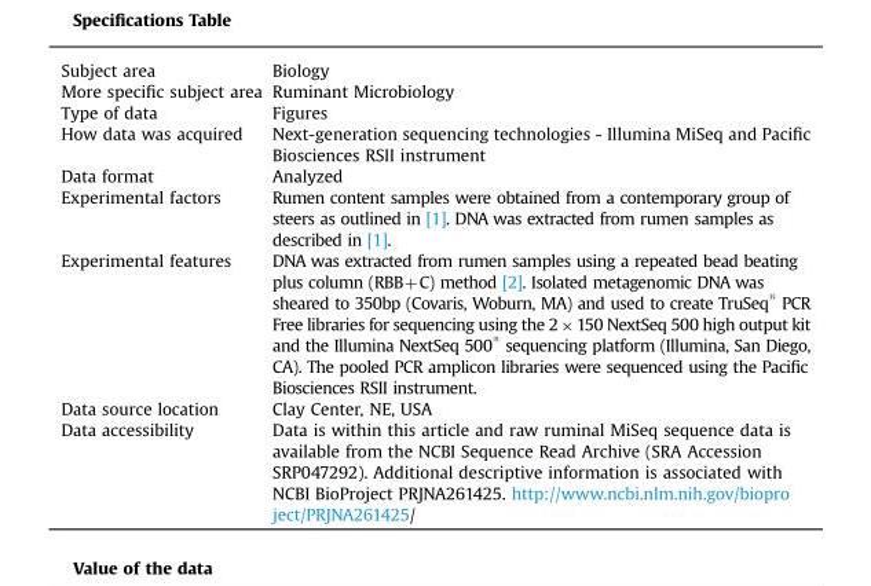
<table><tbody><tr><td>Subject area</td><td>Biology</td></tr><tr><td>More specific subject area</td><td>Ruminant Microbiology</td></tr><tr><td>Type of data</td><td>Figures</td></tr><tr><td>How data was acquired</td><td>Next-generation sequencing technologies - Illumina MiSeq and Pacific Biosciences RSII instrument</td></tr><tr><td>Data format</td><td>Analyzed</td></tr><tr><td>Experimental factors</td><td>Rumen content samples were obtained from a contemporary group of steers as outlined in [1]. DNA was extracted from rumen samples as described in [1].</td></tr><tr><td>Experimental features</td><td>DNA was extracted from rumen samples using a repeated bead beating plus column (RBB+C) method [2]. Isolated metagenomic DNA was sheared to 350bp (Covaris, Woburn, MA) and used to create TruSeq <sup>®</sup> PCR Free libraries for sequencing using the 2× 150 NextSeq 500 high output kit and the Illumina NextSeq 500 <sup>®</sup> sequencing platform (Illumina, San Diego, CA). The pooled PCR amplicon libraries were sequenced using the Pacific Biosciences RSII instrument.</td></tr><tr><td>Data source location</td><td>Clay Center, NE, USA</td></tr><tr><td>Data accessibility</td><td>Data is within this article and raw ruminal MiSeq sequence data is available from the NCBI Sequence Read Archive (SRA Accession SRP047292). Additional descriptive information is associated with NCBI BioProject PRJNA261425. http://www.ncbi.nlm.nih.gov/biopro ject/PRJNA261425/</td></tr></tbody></table>